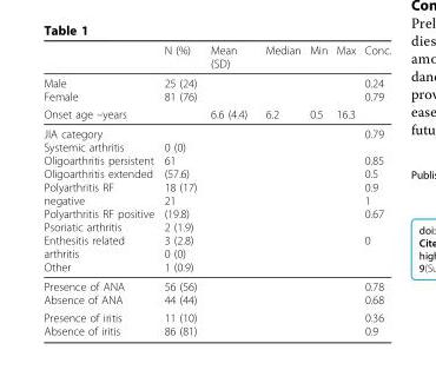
<table><thead><tr><td></td><td>N (%)</td><td>Mean (SD)</td><td>Median</td><td>Min</td><td>Max</td><td>Conc.</td></tr></thead><tbody><tr><td>Male Female</td><td>25 (24) 81 (76)</td><td></td><td></td><td></td><td></td><td>0.24 0.79</td></tr><tr><td>Onset age –years</td><td></td><td>6.6 (4.4)</td><td>6.2</td><td>0.5</td><td>16.3</td><td></td></tr><tr><td>JIA category Systemic arthritis Oligoarthritis persistent Oligoarthritis extended Polyarthritis RF negative Polyarthritis RF positive Psoriatic arthritis Enthesitis related arthritis Other</td><td>0 (0) 61 (57.6) 18 (17) 21 (19.8) 2 (1.9) 3 (2.8) 0 (0) 1 (0.9)</td><td></td><td></td><td></td><td></td><td>0.79 0.85 0.5 0.9 1 0.67 0</td></tr><tr><td>Presence of ANA Absence of ANA</td><td>56 (56) 44 (44)</td><td></td><td></td><td></td><td></td><td>0.78 0.68</td></tr><tr><td>Presence of iritis Absence of iritis</td><td>11 (10) 86 (81)</td><td></td><td></td><td></td><td></td><td>0.36 0.9</td></tr></tbody></table>